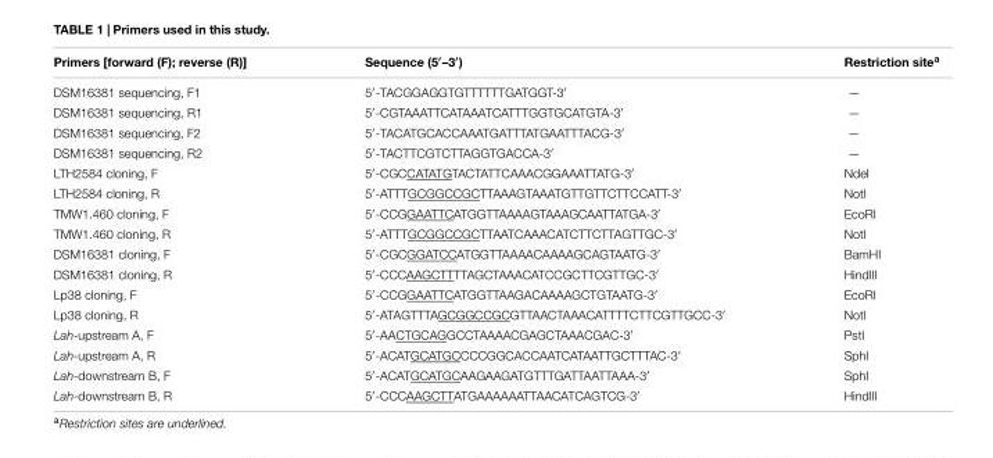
<table><thead><tr><td>Primers [forward (F); reverse (R)]</td><td>Sequence (5′–3′)</td><td>Restriction site<sup>a</sup></td></tr></thead><tbody><tr><td>DSM16381 sequencing, F1</td><td>5′-TACGGAGGTGTTTTTTGATGGT-3′</td><td>—</td></tr><tr><td>DSM16381 sequencing, R1</td><td>5′-CGTAAATTCATAAATCATTTGGTGCATGTA-3′</td><td>—</td></tr><tr><td>DSM16381 sequencing, F2</td><td>5′-TACATGCACCAAATGATTTATGAATTTACG-3′</td><td>—</td></tr><tr><td>DSM16381 sequencing, R2</td><td>5′-TACTTCGTCTTAGGTGACCA-3′</td><td>—</td></tr><tr><td>LTH2584 cloning, F</td><td>5′-CGCCATATGTACTATTCAAACGGAAATTATG-3′</td><td>NdeI</td></tr><tr><td>LTH2584 cloning, R</td><td>5′-ATTTGCGGCCGCTTAAAGTAAATGTTGTTCTTCCATT-3′</td><td>NotI</td></tr><tr><td>TMW1.460 cloning, F</td><td>5′-CCGGAATTCATGGTTAAAAGTAAAGCAATTATGA-3′</td><td>EcoRI</td></tr><tr><td>TMW1.460 cloning, R</td><td>5′-ATTTGCGGCCGCTTAATCAAACATCTTCTTAGTTGC-3′</td><td>NotI</td></tr><tr><td>DSM16381 cloning, F</td><td>5′-CGCGGATCCATGGTTAAAACAAAAGCAGTAATG-3′</td><td>BamHI</td></tr><tr><td>DSM16381 cloning, R</td><td>5′-CCCAAGCTTTTAGCTAAACATCCGCTTCGTTGC-3′</td><td>HindIII</td></tr><tr><td>Lp38 cloning, F</td><td>5′-CCGGAATTCATGGTTAAGACAAAAGCTGTAATG-3′</td><td>EcoRI</td></tr><tr><td>Lp38 cloning, R</td><td>5′-ATAGTTTAGCGGCCGCGTTAACTAAACATTTTCTTCGTTGCC-3′</td><td>NotI</td></tr><tr><td>Lah-upstream A, F</td><td>5′-AACTGCAGGCCTAAAACGAGCTAAACGAC-3′</td><td>PstI</td></tr><tr><td>Lah-upstream A, R</td><td>5′-ACATGCATGCCCCGGCACCAATCATAATTGCTTTAC-3′</td><td>SphI</td></tr><tr><td>Lah-downstream B, F</td><td>5′-ACATGCATGCAAGAAGATGTTTGATTAATTAAA-3′</td><td>SphI</td></tr><tr><td>Lah-downstream B, R</td><td>5′-CCCAAGCTTATGAAAAAATTAACATCAGTCG-3′</td><td>HindIII</td></tr></tbody></table>